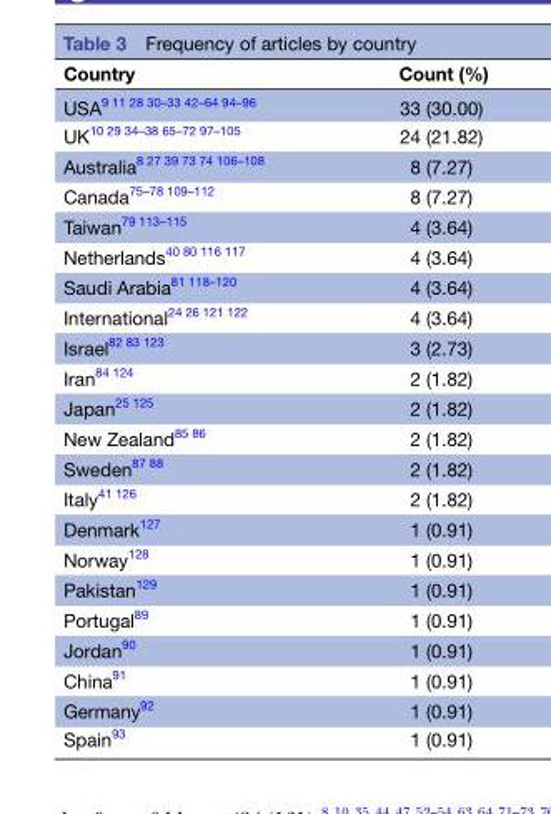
<table><thead><tr><td>Country</td><td>Count (%)</td></tr></thead><tbody><tr><td>USA<sup>9 11 28 30–33 42–64 94–96</sup></td><td>33 (30.00)</td></tr><tr><td>UK<sup>10 29 34–38 65–72 97–105</sup></td><td>24 (21.82)</td></tr><tr><td>Australia<sup>8 27 39 73 74 106–108</sup></td><td>8 (7.27)</td></tr><tr><td>Canada<sup>75–78 109–112</sup></td><td>8 (7.27)</td></tr><tr><td>Taiwan<sup>79 113–115</sup></td><td>4 (3.64)</td></tr><tr><td>Netherlands<sup>40 80 116 117</sup></td><td>4 (3.64)</td></tr><tr><td>Saudi Arabia<sup>81 118–120</sup></td><td>4 (3.64)</td></tr><tr><td>International<sup>24 26 121 122</sup></td><td>4 (3.64)</td></tr><tr><td>Israel<sup>82 83 123</sup></td><td>3 (2.73)</td></tr><tr><td>Iran<sup>84 124</sup></td><td>2 (1.82)</td></tr><tr><td>Japan<sup>25 125</sup></td><td>2 (1.82)</td></tr><tr><td>New Zealand<sup>85 86</sup></td><td>2 (1.82)</td></tr><tr><td>Sweden<sup>87 88</sup></td><td>2 (1.82)</td></tr><tr><td>Italy<sup>41 126</sup></td><td>2 (1.82)</td></tr><tr><td>Denmark<sup>127</sup></td><td>1 (0.91)</td></tr><tr><td>Norway<sup>128</sup></td><td>1 (0.91)</td></tr><tr><td>Pakistan<sup>129</sup></td><td>1 (0.91)</td></tr><tr><td>Portugal<sup>89</sup></td><td>1 (0.91)</td></tr><tr><td>Jordan<sup>90</sup></td><td>1 (0.91)</td></tr><tr><td>China<sup>91</sup></td><td>1 (0.91)</td></tr><tr><td>Germany<sup>92</sup></td><td>1 (0.91)</td></tr><tr><td>Spain<sup>93</sup></td><td>1 (0.91)</td></tr></tbody></table>